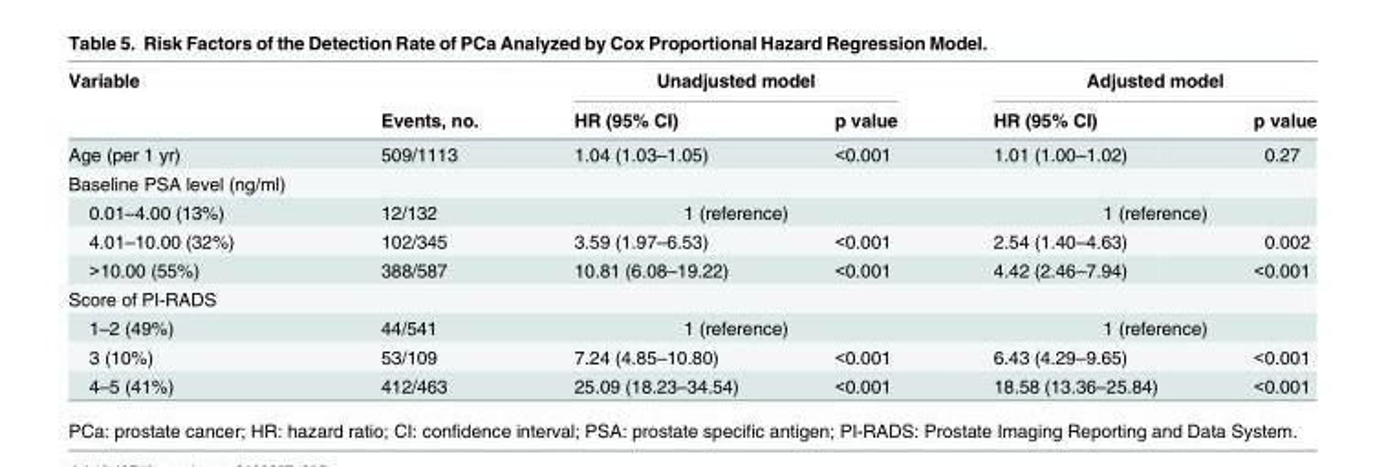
<table><thead><tr><td rowspan="2">Variable</td><td rowspan="2">Events, no.</td><td colspan="2">Unadjusted model</td><td colspan="2">Adjusted model</td></tr><tr><td>HR (95% CI)</td><td>p value</td><td>HR (95% CI)</td><td>p value</td></tr></thead><tbody><tr><td>Age (per 1 yr)</td><td>509/1113</td><td>1.04 (1.03–1.05)</td><td>&lt;0.001</td><td>1.01 (1.00–1.02)</td><td>0.27</td></tr><tr><td colspan="6">Baseline PSA level (ng/ml)</td></tr><tr><td>0.01–4.00 (13%)</td><td>12/132</td><td colspan="2">1 (reference)</td><td colspan="2">1 (reference)</td></tr><tr><td>4.01–10.00 (32%)</td><td>102/345</td><td>3.59 (1.97–6.53)</td><td>&lt;0.001</td><td>2.54 (1.40–4.63)</td><td>0.002</td></tr><tr><td>&gt;10.00 (55%)</td><td>388/587</td><td>10.81 (6.08–19.22)</td><td>&lt;0.001</td><td>4.42 (2.46–7.94)</td><td>&lt;0.001</td></tr><tr><td colspan="6">Score of PI-RADS</td></tr><tr><td>1–2 (49%)</td><td>44/541</td><td colspan="2">1 (reference)</td><td colspan="2">1 (reference)</td></tr><tr><td>3 (10%)</td><td>53/109</td><td>7.24 (4.85–10.80)</td><td>&lt;0.001</td><td>6.43 (4.29–9.65)</td><td>&lt;0.001</td></tr><tr><td>4–5 (41%)</td><td>412/463</td><td>25.09 (18.23–34.54)</td><td>&lt;0.001</td><td>18.58 (13.36–25.84)</td><td>&lt;0.001</td></tr></tbody></table>